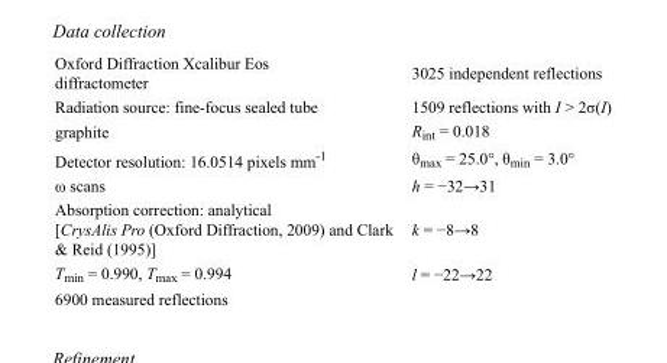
<table><tbody><tr><td>Oxford Diffraction Xcalibur Eos diffractometer</td><td>3025 independent reflections</td></tr><tr><td>Radiation source: fine-focus sealed tube</td><td>1509 reflections with I &gt; 2σ(I)</td></tr><tr><td>graphite</td><td>R<sub>int</sub> = 0.018</td></tr><tr><td>Detector resolution: 16.0514 pixels mm<sup>-1</sup></td><td>θ<sub>max</sub> = 25.0°, θ<sub>min</sub> = 3.0°</td></tr><tr><td>ω scans</td><td>h = −32→31</td></tr><tr><td>Absorption correction: analytical [CrysAlis Pro (Oxford Diffraction, 2009) and Clark &amp; Reid (1995)]</td><td>k = −8→8</td></tr><tr><td>T<sub>min</sub> = 0.990, T<sub>max</sub> = 0.994</td><td>l = −22→22</td></tr><tr><td>6900 measured reflections</td><td></td></tr></tbody></table>